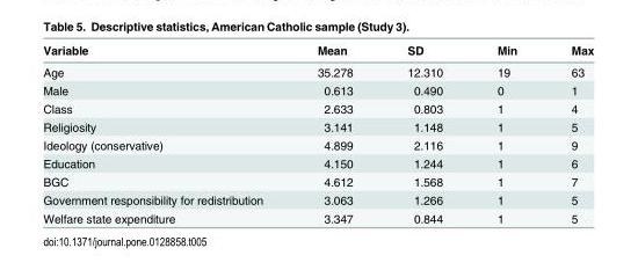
<table><thead><tr><td>Variable</td><td>Mean</td><td>SD</td><td>Min</td><td>Max</td></tr></thead><tbody><tr><td>Age</td><td>35.278</td><td>12.310</td><td>19</td><td>63</td></tr><tr><td>Male</td><td>0.613</td><td>0.490</td><td>0</td><td>1</td></tr><tr><td>Class</td><td>2.633</td><td>0.803</td><td>1</td><td>4</td></tr><tr><td>Religiosity</td><td>3.141</td><td>1.148</td><td>1</td><td>5</td></tr><tr><td>Ideology (conservative)</td><td>4.899</td><td>2.116</td><td>1</td><td>9</td></tr><tr><td>Education</td><td>4.150</td><td>1.244</td><td>1</td><td>6</td></tr><tr><td>BGC</td><td>4.612</td><td>1.568</td><td>1</td><td>7</td></tr><tr><td>Government responsibility for redistribution</td><td>3.063</td><td>1.266</td><td>1</td><td>5</td></tr><tr><td>Welfare state expenditure</td><td>3.347</td><td>0.844</td><td>1</td><td>5</td></tr></tbody></table>